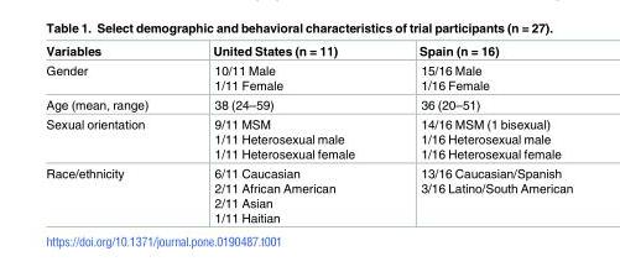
<table><thead><tr><td>Variables</td><td>United States (n = 11)</td><td>Spain (n = 16)</td></tr></thead><tbody><tr><td>Gender</td><td>10/11 Male 1/11 Female</td><td>15/16 Male 1/16 Female</td></tr><tr><td>Age (mean, range)</td><td>38 (24–59)</td><td>36 (20–51)</td></tr><tr><td>Sexual orientation</td><td>9/11 MSM 1/11 Heterosexual male 1/11 Heterosexual female</td><td>14/16 MSM (1 bisexual) 1/16 Heterosexual male 1/16 Heterosexual female</td></tr><tr><td>Race/ethnicity</td><td>6/11 Caucasian 2/11 African American 2/11 Asian 1/11 Haitian</td><td>13/16 Caucasian/Spanish 3/16 Latino/South American</td></tr></tbody></table>